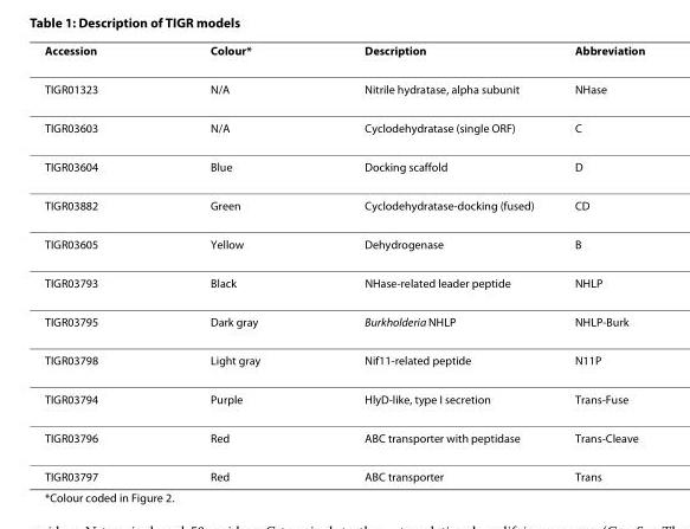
<table><thead><tr><td>Accession</td><td>Colour*</td><td>Description</td><td>Abbreviation</td></tr></thead><tbody><tr><td>TIGR01323</td><td>N/A</td><td>Nitrile hydratase, alpha subunit</td><td>NHase</td></tr><tr><td>TIGR03603</td><td>N/A</td><td>Cyclodehydratase (single ORF)</td><td>C</td></tr><tr><td>TIGR03604</td><td>Blue</td><td>Docking scaffold</td><td>D</td></tr><tr><td>TIGR03882</td><td>Green</td><td>Cyclodehydratase-docking (fused)</td><td>CD</td></tr><tr><td>TIGR03605</td><td>Yellow</td><td>Dehydrogenase</td><td>B</td></tr><tr><td>TIGR03793</td><td>Black</td><td>NHase-related leader peptide</td><td>NHLP</td></tr><tr><td>TIGR03795</td><td>Dark gray</td><td>Burkholderia NHLP</td><td>NHLP-Burk</td></tr><tr><td>TIGR03798</td><td>Light gray</td><td>Nif11-related peptide</td><td>N11P</td></tr><tr><td>TIGR03794</td><td>Purple</td><td>HlyD-like, type I secretion</td><td>Trans-Fuse</td></tr><tr><td>TIGR03796</td><td>Red</td><td>ABC transporter with peptidase</td><td>Trans-Cleave</td></tr><tr><td>TIGR03797</td><td>Red</td><td>ABC transporter</td><td>Trans</td></tr></tbody></table>